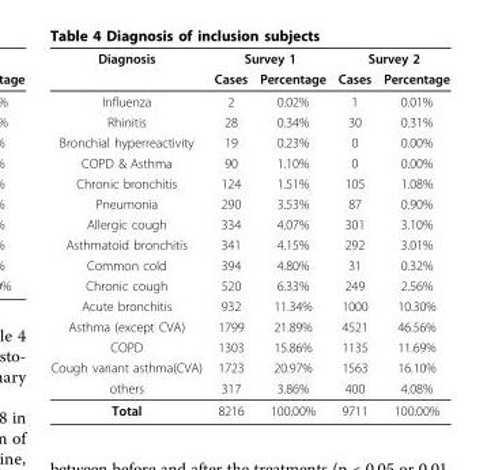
<table><thead><tr><td rowspan="2">Diagnosis</td><td colspan="2">Survey 1</td><td colspan="2">Survey 2</td></tr><tr><td>Cases</td><td>Percentage</td><td>Cases</td><td>Percentage</td></tr></thead><tbody><tr><td>Influenza</td><td>2</td><td>0.02%</td><td>1</td><td>0.01%</td></tr><tr><td>Rhinitis</td><td>28</td><td>0.34%</td><td>30</td><td>0.31%</td></tr><tr><td>Bronchial hyperreactivity</td><td>19</td><td>0.23%</td><td>0</td><td>0.00%</td></tr><tr><td>COPD &amp; Asthma</td><td>90</td><td>1.10%</td><td>0</td><td>0.00%</td></tr><tr><td>Chronic bronchitis</td><td>124</td><td>1.51%</td><td>105</td><td>1.08%</td></tr><tr><td>Pneumonia</td><td>290</td><td>3.53%</td><td>87</td><td>0.90%</td></tr><tr><td>Allergic cough</td><td>334</td><td>4.07%</td><td>301</td><td>3.10%</td></tr><tr><td>Asthmatoid bronchitis</td><td>341</td><td>4.15%</td><td>292</td><td>3.01%</td></tr><tr><td>Common cold</td><td>394</td><td>4.80%</td><td>31</td><td>0.32%</td></tr><tr><td>Chronic cough</td><td>520</td><td>6.33%</td><td>249</td><td>2.56%</td></tr><tr><td>Acute bronchitis</td><td>932</td><td>11.34%</td><td>1000</td><td>10.30%</td></tr><tr><td>Asthma (except CVA)</td><td>1799</td><td>21.89%</td><td>4521</td><td>46.56%</td></tr><tr><td>COPD</td><td>1303</td><td>15.86%</td><td>1135</td><td>11.69%</td></tr><tr><td>Cough variant asthma(CVA)</td><td>1723</td><td>20.97%</td><td>1563</td><td>16.10%</td></tr><tr><td>others</td><td>317</td><td>3.86%</td><td>400</td><td>4.08%</td></tr><tr><td>Total</td><td>8216</td><td>100.00%</td><td>9711</td><td>100.00%</td></tr></tbody></table>